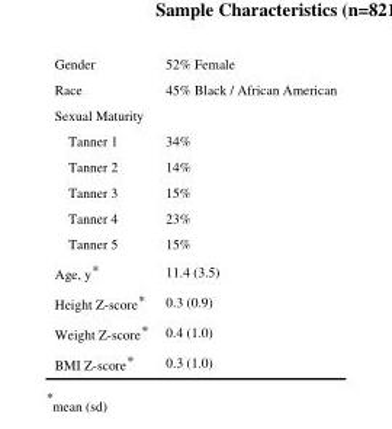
<table><tbody><tr><td>Gender</td><td>52% Female</td></tr><tr><td>Race</td><td>45% Black / African American</td></tr><tr><td colspan="2">Sexual Maturity</td></tr><tr><td>Tanner 1</td><td>34%</td></tr><tr><td>Tanner 2</td><td>14%</td></tr><tr><td>Tanner 3</td><td>15%</td></tr><tr><td>Tanner 4</td><td>23%</td></tr><tr><td>Tanner 5</td><td>15%</td></tr><tr><td>Age, y*</td><td>11.4 (3.5)</td></tr><tr><td>Height Z-score*</td><td>0.3 (0.9)</td></tr><tr><td>Weight Z-score*</td><td>0.4 (1.0)</td></tr><tr><td>BMI Z-score*</td><td>0.3 (1.0)</td></tr></tbody></table>